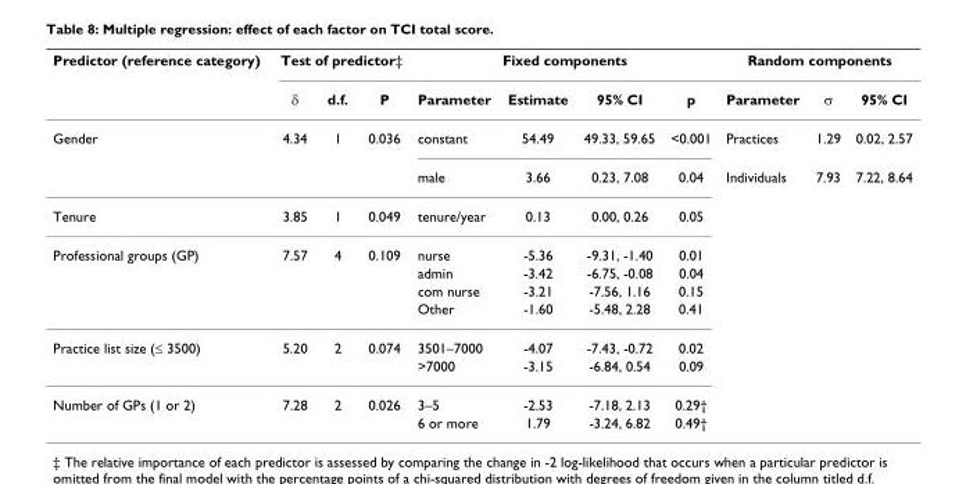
<table><thead><tr><td rowspan="2">Predictor (reference category)</td><td colspan="3">Test of predictor‡</td><td colspan="4">Fixed components</td><td colspan="3">Random components</td></tr><tr><td>δ</td><td>d.f.</td><td>P</td><td>Parameter</td><td>Estimate</td><td>95% CI</td><td>p</td><td>Parameter</td><td>σ</td><td>95% CI</td></tr></thead><tbody><tr><td rowspan="2">Gender</td><td>4.34</td><td>1</td><td>0.036</td><td>constant</td><td>54.49</td><td>49.33, 59.65</td><td>&lt;0.001</td><td>Practices</td><td>1.29</td><td>0.02, 2.57</td></tr><tr><td></td><td></td><td></td><td>male</td><td>3.66</td><td>0.23, 7.08</td><td>0.04</td><td>Individuals</td><td>7.93</td><td>7.22, 8.64</td></tr><tr><td>Tenure</td><td>3.85</td><td>1</td><td>0.049</td><td>tenure/year</td><td>0.13</td><td>0.00, 0.26</td><td>0.05</td><td></td><td></td><td></td></tr><tr><td rowspan="4">Professional groups (GP)</td><td>7.57</td><td>4</td><td>0.109</td><td>nurse</td><td>-5.36</td><td>-9.31, -1.40</td><td>0.01</td><td></td><td></td><td></td></tr><tr><td></td><td></td><td></td><td>admin</td><td>-3.42</td><td>-6.75, -0.08</td><td>0.04</td><td></td><td></td><td></td></tr><tr><td></td><td></td><td></td><td>com nurse</td><td>-3.21</td><td>-7.56, 1.16</td><td>0.15</td><td></td><td></td><td></td></tr><tr><td></td><td></td><td></td><td>Other</td><td>-1.60</td><td>-5.48, 2.28</td><td>0.41</td><td></td><td></td><td></td></tr><tr><td rowspan="2">Practice list size (≤ 3500)</td><td>5.20</td><td>2</td><td>0.074</td><td>3501–7000</td><td>-4.07</td><td>-7.43, -0.72</td><td>0.02</td><td></td><td></td><td></td></tr><tr><td></td><td></td><td></td><td>&gt;7000</td><td>-3.15</td><td>-6.84, 0.54</td><td>0.09</td><td></td><td></td><td></td></tr><tr><td rowspan="2">Number of GPs (1 or 2)</td><td>7.28</td><td>2</td><td>0.026</td><td>3–5</td><td>-2.53</td><td>-7.18, 2.13</td><td>0.29†</td><td></td><td></td><td></td></tr><tr><td></td><td></td><td></td><td>6 or more</td><td>1.79</td><td>-3.24, 6.82</td><td>0.49†</td><td></td><td></td><td></td></tr></tbody></table>